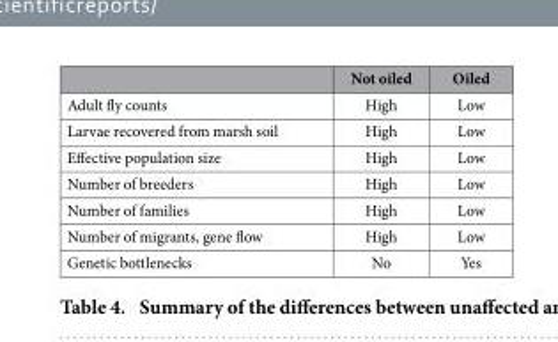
<table><thead><tr><td></td><td>Not oiled</td><td>Oiled</td></tr></thead><tbody><tr><td>Adult fly counts</td><td>High</td><td>Low</td></tr><tr><td>Larvae recovered from marsh soil</td><td>High</td><td>Low</td></tr><tr><td>Effective population size</td><td>High</td><td>Low</td></tr><tr><td>Number of breeders</td><td>High</td><td>Low</td></tr><tr><td>Number of families</td><td>High</td><td>Low</td></tr><tr><td>Number of migrants, gene flow</td><td>High</td><td>Low</td></tr><tr><td>Genetic bottlenecks</td><td>No</td><td>Yes</td></tr></tbody></table>